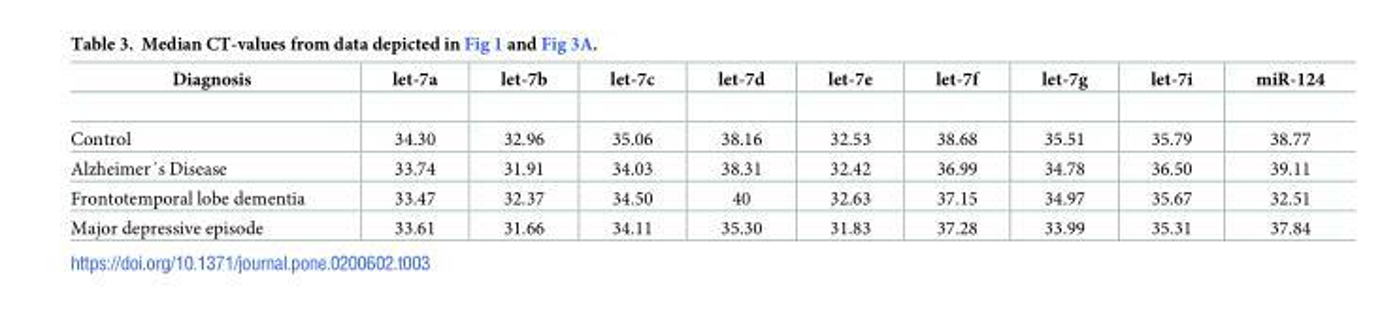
<table><thead><tr><td>Diagnosis</td><td>let-7a</td><td>let-7b</td><td>let-7c</td><td>let-7d</td><td>let-7e</td><td>let-7f</td><td>let-7g</td><td>let-7i</td><td>miR-124</td></tr></thead><tbody><tr><td>Control</td><td>34.30</td><td>32.96</td><td>35.06</td><td>38.16</td><td>32.53</td><td>38.68</td><td>35.51</td><td>35.79</td><td>38.77</td></tr><tr><td>Alzheimer´s Disease</td><td>33.74</td><td>31.91</td><td>34.03</td><td>38.31</td><td>32.42</td><td>36.99</td><td>34.78</td><td>36.50</td><td>39.11</td></tr><tr><td>Frontotemporal lobe dementia</td><td>33.47</td><td>32.37</td><td>34.50</td><td>40</td><td>32.63</td><td>37.15</td><td>34.97</td><td>35.67</td><td>32.51</td></tr><tr><td>Major depressive episode</td><td>33.61</td><td>31.66</td><td>34.11</td><td>35.30</td><td>31.83</td><td>37.28</td><td>33.99</td><td>35.31</td><td>37.84</td></tr></tbody></table>